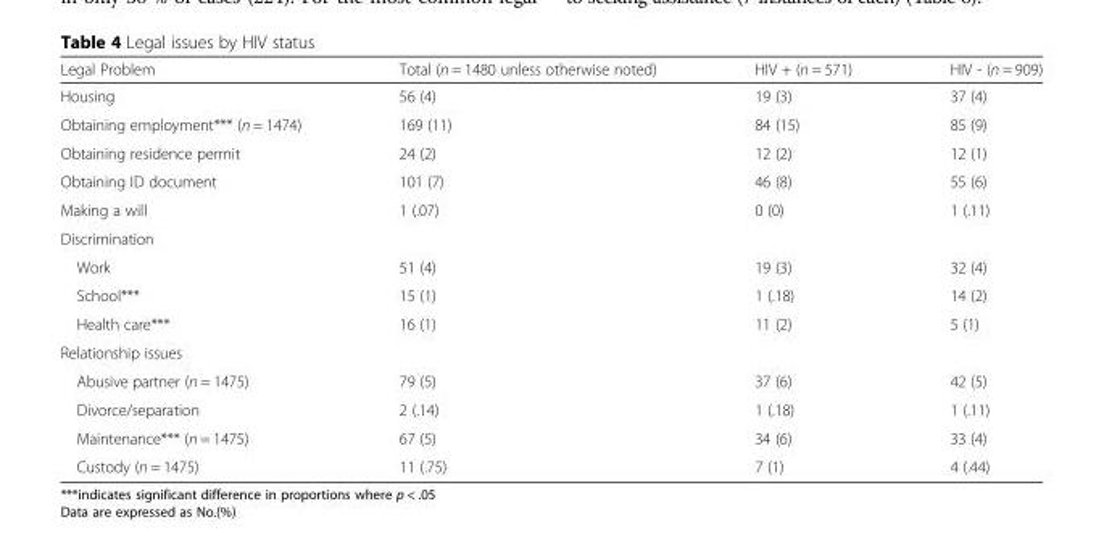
<table><thead><tr><td>Legal Problem</td><td>Total (n = 1480 unless otherwise noted)</td><td>HIV + (n = 571)</td><td>HIV - (n = 909)</td></tr></thead><tbody><tr><td>Housing</td><td>56 (4)</td><td>19 (3)</td><td>37 (4)</td></tr><tr><td>Obtaining employment*** (n = 1474)</td><td>169 (11)</td><td>84 (15)</td><td>85 (9)</td></tr><tr><td>Obtaining residence permit</td><td>24 (2)</td><td>12 (2)</td><td>12 (1)</td></tr><tr><td>Obtaining ID document</td><td>101 (7)</td><td>46 (8)</td><td>55 (6)</td></tr><tr><td>Making a will</td><td>1 (.07)</td><td>0 (0)</td><td>1 (.11)</td></tr><tr><td colspan="4">Discrimination</td></tr><tr><td>Work</td><td>51 (4)</td><td>19 (3)</td><td>32 (4)</td></tr><tr><td>School***</td><td>15 (1)</td><td>1 (.18)</td><td>14 (2)</td></tr><tr><td>Health care***</td><td>16 (1)</td><td>11 (2)</td><td>5 (1)</td></tr><tr><td colspan="4">Relationship issues</td></tr><tr><td>Abusive partner (n = 1475)</td><td>79 (5)</td><td>37 (6)</td><td>42 (5)</td></tr><tr><td>Divorce/separation</td><td>2 (.14)</td><td>1 (.18)</td><td>1 (.11)</td></tr><tr><td>Maintenance*** (n = 1475)</td><td>67 (5)</td><td>34 (6)</td><td>33 (4)</td></tr><tr><td>Custody (n = 1475)</td><td>11 (.75)</td><td>7 (1)</td><td>4 (.44)</td></tr></tbody></table>